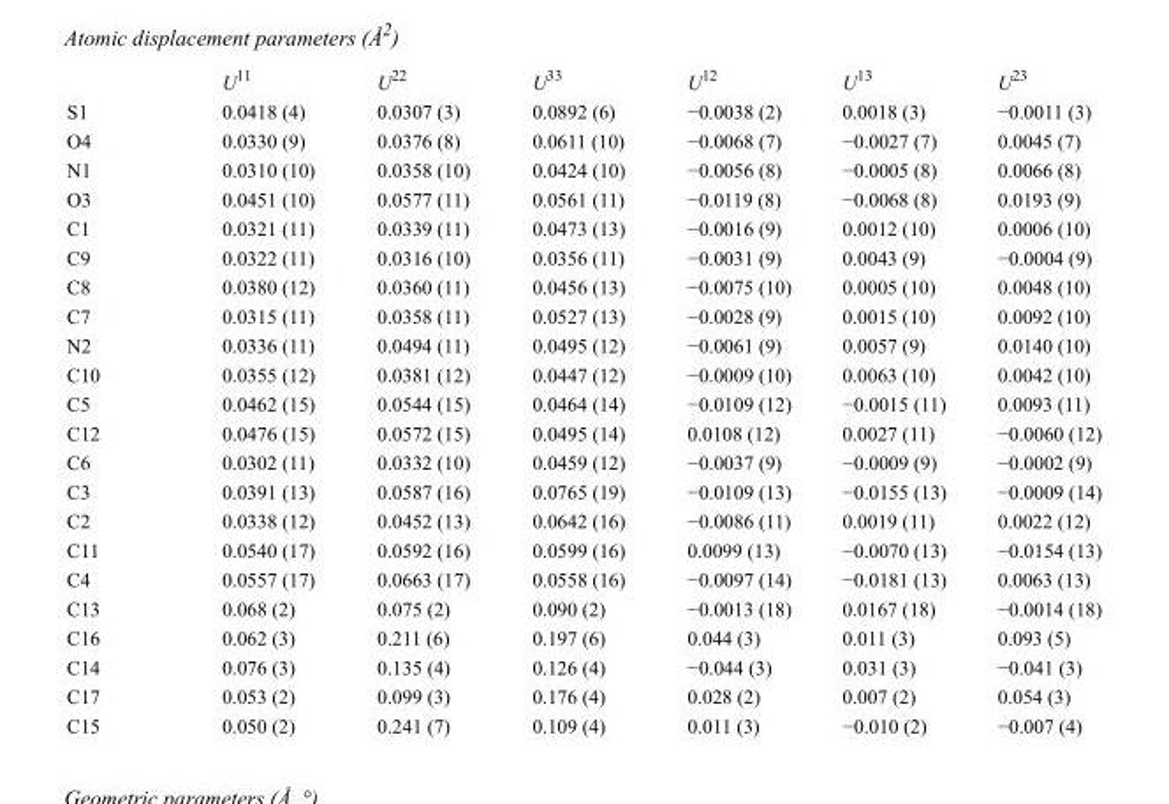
<table><thead><tr><td></td><td>U<sup>11</sup></td><td>U<sup>22</sup></td><td>U<sup>33</sup></td><td>U<sup>12</sup></td><td>U<sup>13</sup></td><td>U<sup>23</sup></td></tr></thead><tbody><tr><td>S1</td><td>0.0418 (4)</td><td>0.0307 (3)</td><td>0.0892 (6)</td><td>−0.0038 (2)</td><td>0.0018 (3)</td><td>−0.0011 (3)</td></tr><tr><td>O4</td><td>0.0330 (9)</td><td>0.0376 (8)</td><td>0.0611 (10)</td><td>−0.0068 (7)</td><td>−0.0027 (7)</td><td>0.0045 (7)</td></tr><tr><td>N1</td><td>0.0310 (10)</td><td>0.0358 (10)</td><td>0.0424 (10)</td><td>−0.0056 (8)</td><td>−0.0005 (8)</td><td>0.0066 (8)</td></tr><tr><td>O3</td><td>0.0451 (10)</td><td>0.0577 (11)</td><td>0.0561 (11)</td><td>−0.0119 (8)</td><td>−0.0068 (8)</td><td>0.0193 (9)</td></tr><tr><td>C1</td><td>0.0321 (11)</td><td>0.0339 (11)</td><td>0.0473 (13)</td><td>−0.0016 (9)</td><td>0.0012 (10)</td><td>0.0006 (10)</td></tr><tr><td>C9</td><td>0.0322 (11)</td><td>0.0316 (10)</td><td>0.0356 (11)</td><td>−0.0031 (9)</td><td>0.0043 (9)</td><td>−0.0004 (9)</td></tr><tr><td>C8</td><td>0.0380 (12)</td><td>0.0360 (11)</td><td>0.0456 (13)</td><td>−0.0075 (10)</td><td>0.0005 (10)</td><td>0.0048 (10)</td></tr><tr><td>C7</td><td>0.0315 (11)</td><td>0.0358 (11)</td><td>0.0527 (13)</td><td>−0.0028 (9)</td><td>0.0015 (10)</td><td>0.0092 (10)</td></tr><tr><td>N2</td><td>0.0336 (11)</td><td>0.0494 (11)</td><td>0.0495 (12)</td><td>−0.0061 (9)</td><td>0.0057 (9)</td><td>0.0140 (10)</td></tr><tr><td>C10</td><td>0.0355 (12)</td><td>0.0381 (12)</td><td>0.0447 (12)</td><td>−0.0009 (10)</td><td>0.0063 (10)</td><td>0.0042 (10)</td></tr><tr><td>C5</td><td>0.0462 (15)</td><td>0.0544 (15)</td><td>0.0464 (14)</td><td>−0.0109 (12)</td><td>−0.0015 (11)</td><td>0.0093 (11)</td></tr><tr><td>C12</td><td>0.0476 (15)</td><td>0.0572 (15)</td><td>0.0495 (14)</td><td>0.0108 (12)</td><td>0.0027 (11)</td><td>−0.0060 (12)</td></tr><tr><td>C6</td><td>0.0302 (11)</td><td>0.0332 (10)</td><td>0.0459 (12)</td><td>−0.0037 (9)</td><td>−0.0009 (9)</td><td>−0.0002 (9)</td></tr><tr><td>C3</td><td>0.0391 (13)</td><td>0.0587 (16)</td><td>0.0765 (19)</td><td>−0.0109 (13)</td><td>−0.0155 (13)</td><td>−0.0009 (14)</td></tr><tr><td>C2</td><td>0.0338 (12)</td><td>0.0452 (13)</td><td>0.0642 (16)</td><td>−0.0086 (11)</td><td>0.0019 (11)</td><td>0.0022 (12)</td></tr><tr><td>C11</td><td>0.0540 (17)</td><td>0.0592 (16)</td><td>0.0599 (16)</td><td>0.0099 (13)</td><td>−0.0070 (13)</td><td>−0.0154 (13)</td></tr><tr><td>C4</td><td>0.0557 (17)</td><td>0.0663 (17)</td><td>0.0558 (16)</td><td>−0.0097 (14)</td><td>−0.0181 (13)</td><td>0.0063 (13)</td></tr><tr><td>C13</td><td>0.068 (2)</td><td>0.075 (2)</td><td>0.090 (2)</td><td>−0.0013 (18)</td><td>0.0167 (18)</td><td>−0.0014 (18)</td></tr><tr><td>C16</td><td>0.062 (3)</td><td>0.211 (6)</td><td>0.197 (6)</td><td>0.044 (3)</td><td>0.011 (3)</td><td>0.093 (5)</td></tr><tr><td>C14</td><td>0.076 (3)</td><td>0.135 (4)</td><td>0.126 (4)</td><td>−0.044 (3)</td><td>0.031 (3)</td><td>−0.041 (3)</td></tr><tr><td>C17</td><td>0.053 (2)</td><td>0.099 (3)</td><td>0.176 (4)</td><td>0.028 (2)</td><td>0.007 (2)</td><td>0.054 (3)</td></tr><tr><td>C15</td><td>0.050 (2)</td><td>0.241 (7)</td><td>0.109 (4)</td><td>0.011 (3)</td><td>−0.010 (2)</td><td>−0.007 (4)</td></tr></tbody></table>